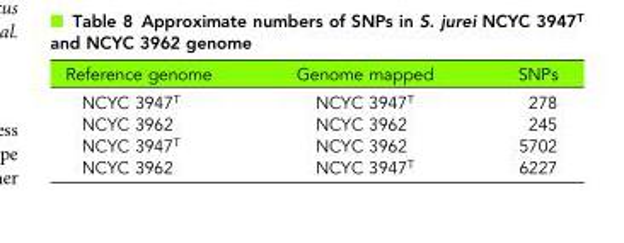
<table><thead><tr><td>Reference genome</td><td>Genome mapped</td><td>SNPs</td></tr></thead><tbody><tr><td>NCYC 3947<sup>T</sup></td><td>NCYC 3947<sup>T</sup></td><td>278</td></tr><tr><td>NCYC 3962</td><td>NCYC 3962</td><td>245</td></tr><tr><td>NCYC 3947<sup>T</sup></td><td>NCYC 3962</td><td>5702</td></tr><tr><td>NCYC 3962</td><td>NCYC 3947<sup>T</sup></td><td>6227</td></tr></tbody></table>